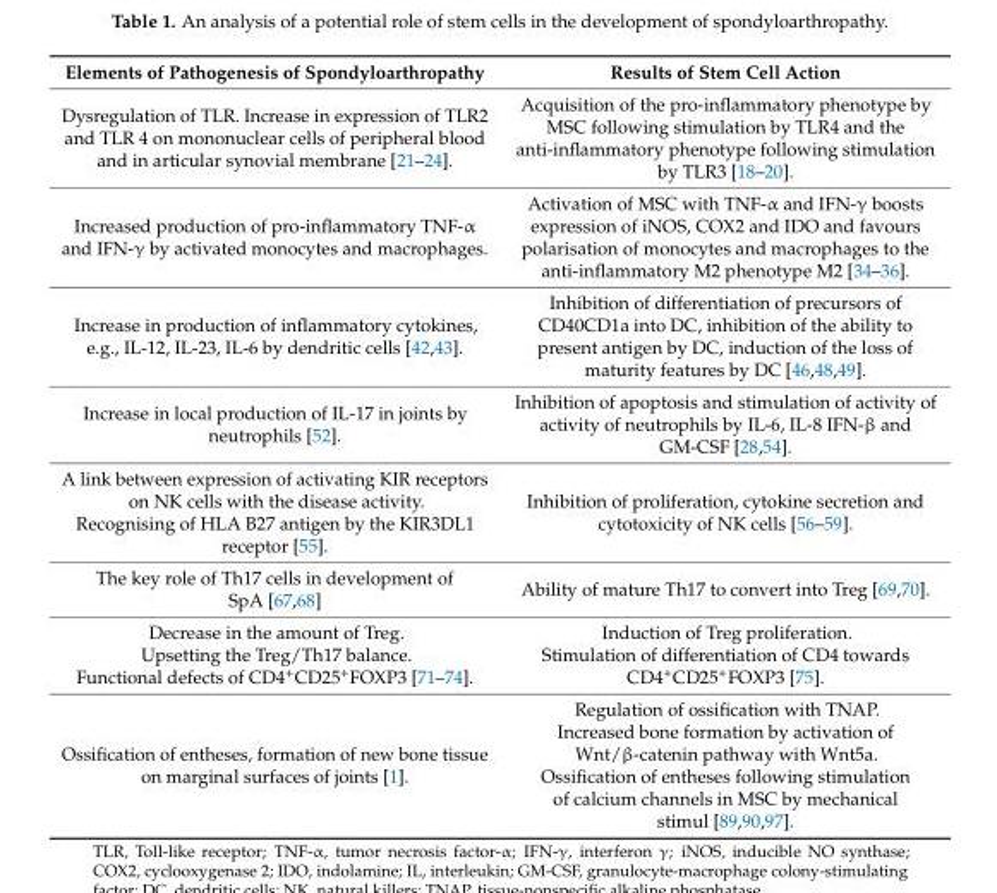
<table><thead><tr><td>Elements of Pathogenesis of Spondyloarthropathy</td><td>Results of Stem Cell Action</td></tr></thead><tbody><tr><td>Dysregulation of TLR. Increase in expression of TLR2 and TLR 4 on mononuclear cells of peripheral blood and in articular synovial membrane [21–24].</td><td>Acquisition of the pro-inflammatory phenotype by MSC following stimulation by TLR4 and the anti-inflammatory phenotype following stimulation by TLR3 [18–20].</td></tr><tr><td>Increased production of pro-inflammatory TNF-α and IFN-γ by activated monocytes and macrophages.</td><td>Activation of MSC with TNF-α and IFN-γ boosts expression of iNOS, COX2 and IDO and favours polarisation of monocytes and macrophages to the anti-inflammatory M2 phenotype M2 [34–36].</td></tr><tr><td>Increase in production of inflammatory cytokines, e.g., IL-12, IL-23, IL-6 by dendritic cells [42,43].</td><td>Inhibition of differentiation of precursors of CD40CD1a into DC, inhibition of the ability to present antigen by DC, induction of the loss of maturity features by DC [46,48,49].</td></tr><tr><td>Increase in local production of IL-17 in joints by neutrophils [52].</td><td>Inhibition of apoptosis and stimulation of activity of activity of neutrophils by IL-6, IL-8 IFN-β and GM-CSF [28,54].</td></tr><tr><td>A link between expression of activating KIR receptors on NK cells with the disease activity. Recognising of HLA B27 antigen by the KIR3DL1 receptor [55].</td><td>Inhibition of proliferation, cytokine secretion and cytotoxicity of NK cells [56–59].</td></tr><tr><td>The key role of Th17 cells in development of SpA [67,68]</td><td>Ability of mature Th17 to convert into Treg [69,70].</td></tr><tr><td>Decrease in the amount of Treg. Upsetting the Treg/Th17 balance. Functional defects of CD4+CD25+FOXP3 [71–74].</td><td>Induction of Treg proliferation. Stimulation of differentiation of CD4 towards CD4<sup>+</sup>CD25<sup>+</sup>FOXP3 [75].</td></tr><tr><td>Ossification of entheses, formation of new bone tissue on marginal surfaces of joints [1].</td><td>Regulation of ossification with TNAP. Increased bone formation by activation of Wnt/β-catenin pathway with Wnt5a. Ossification of entheses following stimulation of calcium channels in MSC by mechanical stimul [89,90,97].</td></tr></tbody></table>